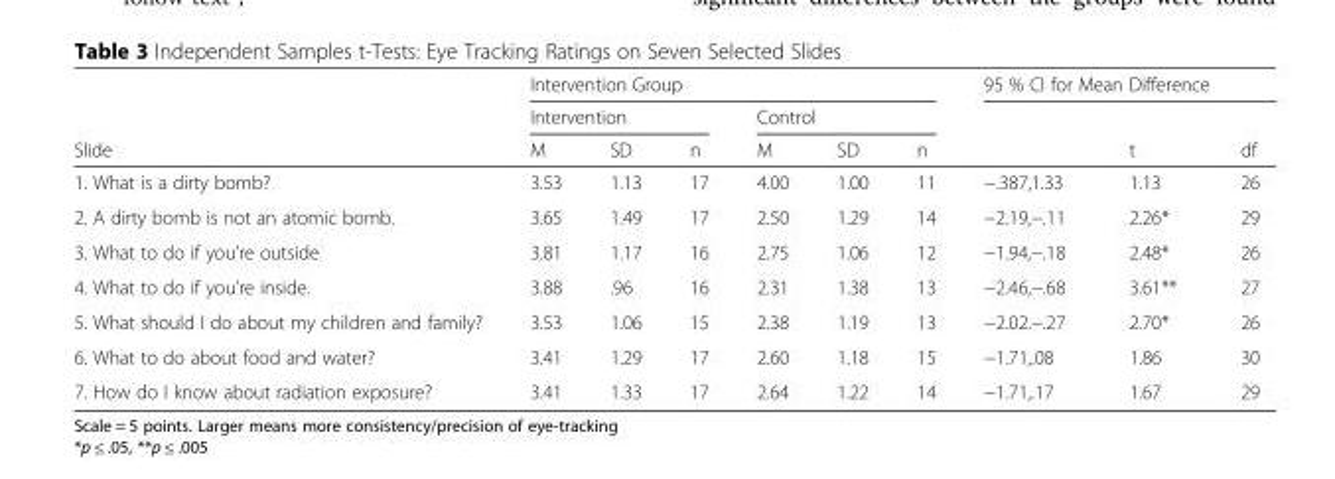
<table><thead><tr><td rowspan="3">Slide</td><td colspan="6">Intervention Group</td><td colspan="3">95 % CI for Mean Difference</td></tr><tr><td colspan="3">Intervention</td><td colspan="3">Control</td><td rowspan="2"></td><td rowspan="2">t</td><td rowspan="2">df</td></tr><tr><td>M</td><td>SD</td><td>n</td><td>M</td><td>SD</td><td>n</td></tr></thead><tbody><tr><td>1. What is a dirty bomb?</td><td>3.53</td><td>1.13</td><td>17</td><td>4.00</td><td>1.00</td><td>11</td><td>−.387,1.33</td><td>1.13</td><td>26</td></tr><tr><td>2. A dirty bomb is not an atomic bomb.</td><td>3.65</td><td>1.49</td><td>17</td><td>2.50</td><td>1.29</td><td>14</td><td>−2.19,−.11</td><td>2.26*</td><td>29</td></tr><tr><td>3. What to do if you’re outside</td><td>3.81</td><td>1.17</td><td>16</td><td>2.75</td><td>1.06</td><td>12</td><td>−1.94,−.18</td><td>2.48*</td><td>26</td></tr><tr><td>4. What to do if you’re inside.</td><td>3.88</td><td>.96</td><td>16</td><td>2.31</td><td>1.38</td><td>13</td><td>−2.46,−.68</td><td>3.61**</td><td>27</td></tr><tr><td>5. What should I do about my children and family?</td><td>3.53</td><td>1.06</td><td>15</td><td>2.38</td><td>1.19</td><td>13</td><td>−2.02.−.27</td><td>2.70*</td><td>26</td></tr><tr><td>6. What to do about food and water?</td><td>3.41</td><td>1.29</td><td>17</td><td>2.60</td><td>1.18</td><td>15</td><td>−1.71,.08</td><td>1.86</td><td>30</td></tr><tr><td>7. How do I know about radiation exposure?</td><td>3.41</td><td>1.33</td><td>17</td><td>2.64</td><td>1.22</td><td>14</td><td>−1.71,.17</td><td>1.67</td><td>29</td></tr></tbody></table>